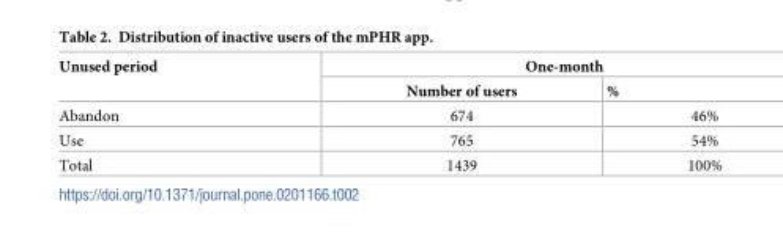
<table><thead><tr><td rowspan="2">Unused period</td><td colspan="2">One-month</td></tr><tr><td>Number of users</td><td>%</td></tr></thead><tbody><tr><td>Abandon</td><td>674</td><td>46%</td></tr><tr><td>Use</td><td>765</td><td>54%</td></tr><tr><td>Total</td><td>1439</td><td>100%</td></tr></tbody></table>